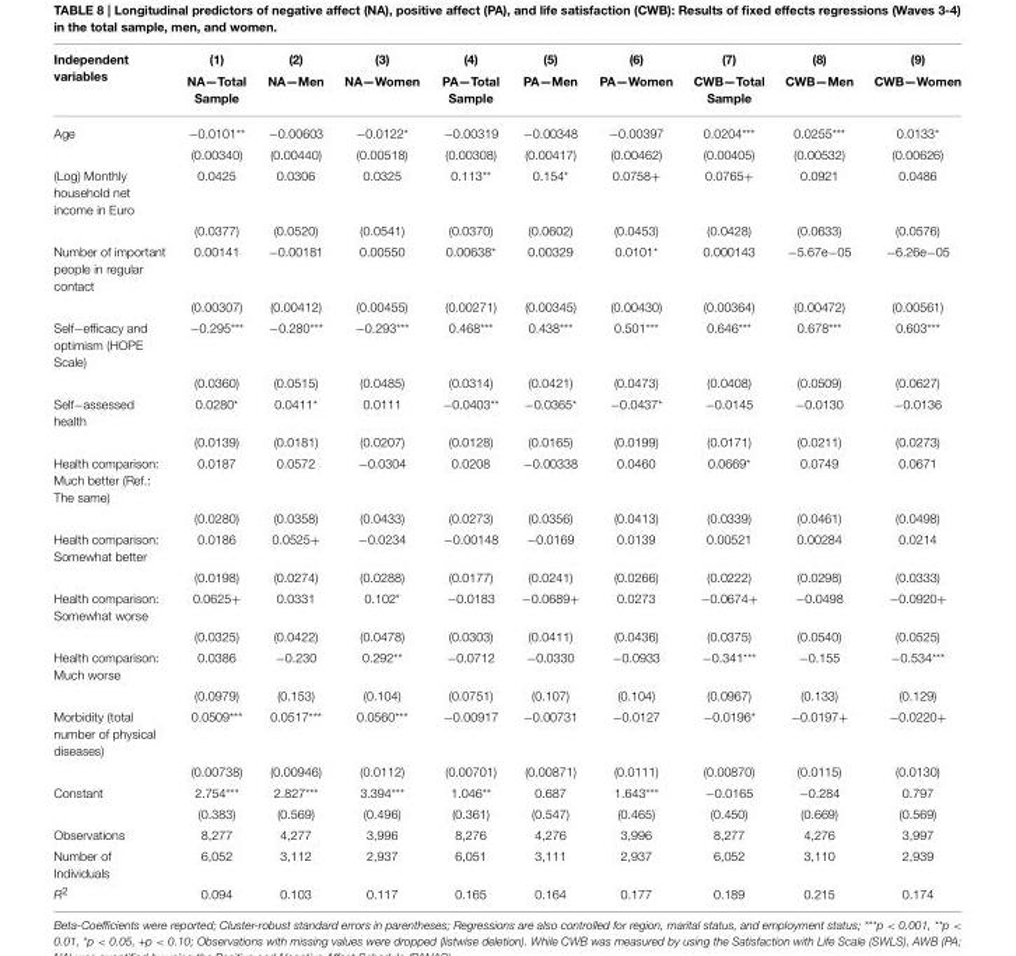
<table><thead><tr><td>Independent variables</td><td>(1) NA—Total Sample</td><td>(2) NA—Men</td><td>(3) NA—Women</td><td>(4) PA—Total Sample</td><td>(5) PA—Men</td><td>(6) PA—Women</td><td>(7) CWB—Total Sample</td><td>(8) CWB—Men</td><td>(9) CWB—Women</td></tr></thead><tbody><tr><td rowspan="2">Age</td><td>−0.0101**</td><td>−0.00603</td><td>−0.0122*</td><td>−0.00319</td><td>−0.00348</td><td>−0.00397</td><td>0.0204***</td><td>0.0255***</td><td>0.0133*</td></tr><tr><td>(0.00340)</td><td>(0.00440)</td><td>(0.00518)</td><td>(0.00308)</td><td>(0.00417)</td><td>(0.00462)</td><td>(0.00405)</td><td>(0.00532)</td><td>(0.00626)</td></tr><tr><td rowspan="2">(Log) Monthly household net income in Euro</td><td>0.0425</td><td>0.0306</td><td>0.0325</td><td>0.113**</td><td>0.154*</td><td>0.0758+</td><td>0.0765+</td><td>0.0921</td><td>0.0486</td></tr><tr><td>(0.0377)</td><td>(0.0520)</td><td>(0.0541)</td><td>(0.0370)</td><td>(0.0602)</td><td>(0.0453)</td><td>(0.0428)</td><td>(0.0633)</td><td>(0.0576)</td></tr><tr><td rowspan="2">Number of important people in regular contact</td><td>0.00141</td><td>−0.00181</td><td>0.00550</td><td>0.00638*</td><td>0.00329</td><td>0.0101*</td><td>0.000143</td><td>−5.67e−05</td><td>−6.26e−05</td></tr><tr><td>(0.00307)</td><td>(0.00412)</td><td>(0.00455)</td><td>(0.00271)</td><td>(0.00345)</td><td>(0.00430)</td><td>(0.00364)</td><td>(0.00472)</td><td>(0.00561)</td></tr><tr><td rowspan="2">Self−efficacy and optimism (HOPE Scale)</td><td>−0.295***</td><td>−0.280***</td><td>−0.293***</td><td>0.468***</td><td>0.438***</td><td>0.501***</td><td>0.646***</td><td>0.678***</td><td>0.603***</td></tr><tr><td>(0.0360)</td><td>(0.0515)</td><td>(0.0485)</td><td>(0.0314)</td><td>(0.0421)</td><td>(0.0473)</td><td>(0.0408)</td><td>(0.0509)</td><td>(0.0627)</td></tr><tr><td rowspan="2">Self−assessed health</td><td>0.0280*</td><td>0.0411*</td><td>0.0111</td><td>−0.0403**</td><td>−0.0365*</td><td>−0.0437*</td><td>−0.0145</td><td>−0.0130</td><td>−0.0136</td></tr><tr><td>(0.0139)</td><td>(0.0181)</td><td>(0.0207)</td><td>(0.0128)</td><td>(0.0165)</td><td>(0.0199)</td><td>(0.0171)</td><td>(0.0211)</td><td>(0.0273)</td></tr><tr><td rowspan="2">Health comparison: Much better (Ref.: The same)</td><td>0.0187</td><td>0.0572</td><td>−0.0304</td><td>0.0208</td><td>−0.00338</td><td>0.0460</td><td>0.0669*</td><td>0.0749</td><td>0.0671</td></tr><tr><td>(0.0280)</td><td>(0.0358)</td><td>(0.0433)</td><td>(0.0273)</td><td>(0.0356)</td><td>(0.0413)</td><td>(0.0339)</td><td>(0.0461)</td><td>(0.0498)</td></tr><tr><td rowspan="2">Health comparison: Somewhat better</td><td>0.0186</td><td>0.0525+</td><td>−0.0234</td><td>−0.00148</td><td>−0.0169</td><td>0.0139</td><td>0.00521</td><td>0.00284</td><td>0.0214</td></tr><tr><td>(0.0198)</td><td>(0.0274)</td><td>(0.0288)</td><td>(0.0177)</td><td>(0.0241)</td><td>(0.0266)</td><td>(0.0222)</td><td>(0.0298)</td><td>(0.0333)</td></tr><tr><td rowspan="2">Health comparison: Somewhat worse</td><td>0.0625+</td><td>0.0331</td><td>0.102*</td><td>−0.0183</td><td>−0.0689+</td><td>0.0273</td><td>−0.0674+</td><td>−0.0498</td><td>−0.0920+</td></tr><tr><td>(0.0325)</td><td>(0.0422)</td><td>(0.0478)</td><td>(0.0303)</td><td>(0.0411)</td><td>(0.0436)</td><td>(0.0375)</td><td>(0.0540)</td><td>(0.0525)</td></tr><tr><td rowspan="2">Health comparison: Much worse</td><td>0.0386</td><td>−0.230</td><td>0.292**</td><td>−0.0712</td><td>−0.0330</td><td>−0.0933</td><td>−0.341***</td><td>−0.155</td><td>−0.534***</td></tr><tr><td>(0.0979)</td><td>(0.153)</td><td>(0.104)</td><td>(0.0751)</td><td>(0.107)</td><td>(0.104)</td><td>(0.0967)</td><td>(0.133)</td><td>(0.129)</td></tr><tr><td rowspan="2">Morbidity (total number of physical diseases)</td><td>0.0509***</td><td>0.0517***</td><td>0.0560***</td><td>−0.00917</td><td>−0.00731</td><td>−0.0127</td><td>−0.0196*</td><td>−0.0197+</td><td>−0.0220+</td></tr><tr><td>(0.00738)</td><td>(0.00946)</td><td>(0.0112)</td><td>(0.00701)</td><td>(0.00871)</td><td>(0.0111)</td><td>(0.00870)</td><td>(0.0115)</td><td>(0.0130)</td></tr><tr><td rowspan="2">Constant</td><td>2.754***</td><td>2.827***</td><td>3.394***</td><td>1.046**</td><td>0.687</td><td>1.643***</td><td>−0.0165</td><td>−0.284</td><td>0.797</td></tr><tr><td>(0.383)</td><td>(0.569)</td><td>(0.496)</td><td>(0.361)</td><td>(0.547)</td><td>(0.465)</td><td>(0.450)</td><td>(0.669)</td><td>(0.569)</td></tr><tr><td>Observations</td><td>8,277</td><td>4,277</td><td>3,996</td><td>8,276</td><td>4,276</td><td>3,996</td><td>8,277</td><td>4,276</td><td>3,997</td></tr><tr><td>Number of Individuals</td><td>6,052</td><td>3,112</td><td>2,937</td><td>6,051</td><td>3,111</td><td>2,937</td><td>6,052</td><td>3,110</td><td>2,939</td></tr><tr><td>R<sup>2</sup></td><td>0.094</td><td>0.103</td><td>0.117</td><td>0.165</td><td>0.164</td><td>0.177</td><td>0.189</td><td>0.215</td><td>0.174</td></tr></tbody></table>